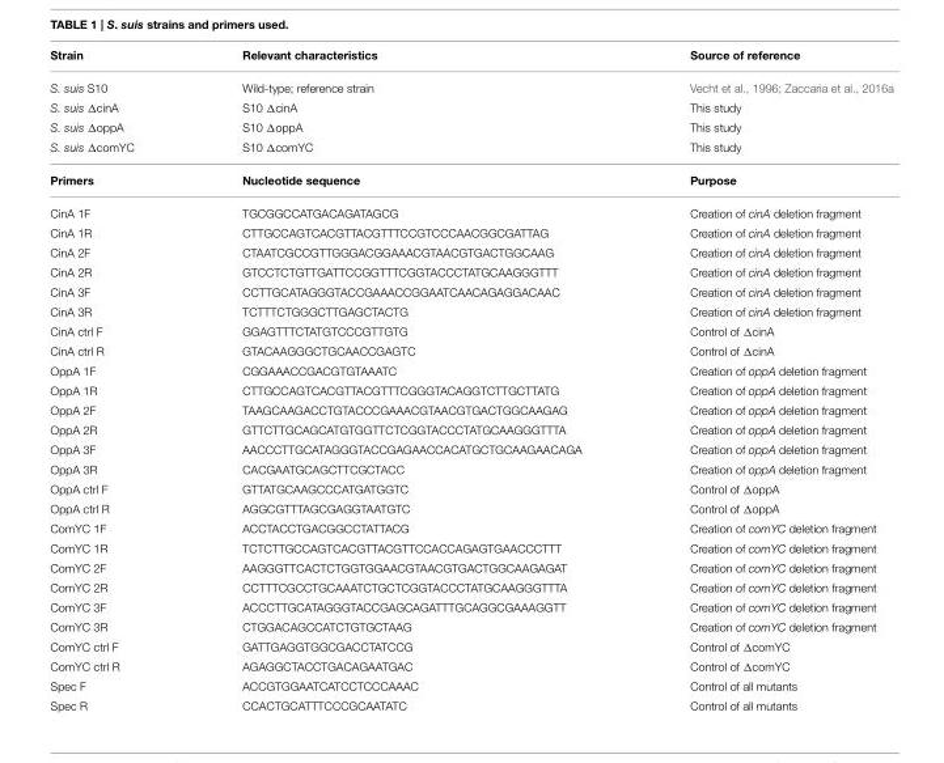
<table><thead><tr><td>Strain</td><td>Relevant characteristics</td><td>Source of reference</td></tr></thead><tbody><tr><td>S. suis S10</td><td>Wild-type; reference strain</td><td>Vecht et al., 1996; Zaccaria et al., 2016a</td></tr><tr><td>S. suis ΔcinA</td><td>S10 ΔcinA</td><td>This study</td></tr><tr><td>S. suis ΔoppA</td><td>S10 ΔoppA</td><td>This study</td></tr><tr><td>S. suis ΔcomYC</td><td>S10 ΔcomYC</td><td>This study</td></tr><tr><td>Primers</td><td>Nucleotide sequence</td><td>Purpose</td></tr><tr><td>CinA 1F</td><td>TGCGGCCATGACAGATAGCG</td><td>Creation of cinA deletion fragment</td></tr><tr><td>CinA 1R</td><td>CTTGCCAGTCACGTTACGTTTCCGTCCCAACGGCGATTAG</td><td>Creation of cinA deletion fragment</td></tr><tr><td>CinA 2F</td><td>CTAATCGCCGTTGGGACGGAAACGTAACGTGACTGGCAAG</td><td>Creation of cinA deletion fragment</td></tr><tr><td>CinA 2R</td><td>GTCCTCTGTTGATTCCGGTTTCGGTACCCTATGCAAGGGTTT</td><td>Creation of cinA deletion fragment</td></tr><tr><td>CinA 3F</td><td>CCTTGCATAGGGTACCGAAACCGGAATCAACAGAGGACAAC</td><td>Creation of cinA deletion fragment</td></tr><tr><td>CinA 3R</td><td>TCTTTCTGGGCTTGAGCTACTG</td><td>Creation of cinA deletion fragment</td></tr><tr><td>CinA ctrl F</td><td>GGAGTTTCTATGTCCCGTTGTG</td><td>Control of ΔcinA</td></tr><tr><td>CinA ctrl R</td><td>GTACAAGGGCTGCAACCGAGTC</td><td>Control of ΔcinA</td></tr><tr><td>OppA 1F</td><td>CGGAAACCGACGTGTAAATC</td><td>Creation of oppA deletion fragment</td></tr><tr><td>OppA 1R</td><td>CTTGCCAGTCACGTTACGTTTCGGGTACAGGTCTTGCTTATG</td><td>Creation of oppA deletion fragment</td></tr><tr><td>OppA 2F</td><td>TAAGCAAGACCTGTACCCGAAACGTAACGTGACTGGCAAGAG</td><td>Creation of oppA deletion fragment</td></tr><tr><td>OppA 2R</td><td>GTTCTTGCAGCATGTGGTTCTCGGTACCCTATGCAAGGGTTTA</td><td>Creation of oppA deletion fragment</td></tr><tr><td>OppA 3F</td><td>AACCCTTGCATAGGGTACCGAGAACCACATGCTGCAAGAACAGA</td><td>Creation of oppA deletion fragment</td></tr><tr><td>OppA 3R</td><td>CACGAATGCAGCTTCGCTACC</td><td>Creation of oppA deletion fragment</td></tr><tr><td>OppA ctrl F</td><td>GTTATGCAAGCCCATGATGGTC</td><td>Control of ΔoppA</td></tr><tr><td>OppA ctrl R</td><td>AGGCGTTTAGCGAGGTAATGTC</td><td>Control of ΔoppA</td></tr><tr><td>ComYC 1F</td><td>ACCTACCTGACGGCCTATTACG</td><td>Creation of comYC deletion fragment</td></tr><tr><td>ComYC 1R</td><td>TCTCTTGCCAGTCACGTTACGTTCCACCAGAGTGAACCCTTT</td><td>Creation of comYC deletion fragment</td></tr><tr><td>ComYC 2F</td><td>AAGGGTTCACTCTGGTGGAACGTAACGTGACTGGCAAGAGAT</td><td>Creation of comYC deletion fragment</td></tr><tr><td>ComYC 2R</td><td>CCTTTCGCCTGCAAATCTGCTCGGTACCCTATGCAAGGGTTTA</td><td>Creation of comYC deletion fragment</td></tr><tr><td>ComYC 3F</td><td>ACCCTTGCATAGGGTACCGAGCAGATTTGCAGGCGAAAGGTT</td><td>Creation of comYC deletion fragment</td></tr><tr><td>ComYC 3R</td><td>CTGGACAGCCATCTGTGCTAAG</td><td>Creation of comYC deletion fragment</td></tr><tr><td>ComYC ctrl F</td><td>GATTGAGGTGGCGACCTATCCG</td><td>Control of ΔcomYC</td></tr><tr><td>ComYC ctrl R</td><td>AGAGGCTACCTGACAGAATGAC</td><td>Control of ΔcomYC</td></tr><tr><td>Spec F</td><td>ACCGTGGAATCATCCTCCCAAAC</td><td>Control of all mutants</td></tr><tr><td>Spec R</td><td>CCACTGCATTTCCCGCAATATC</td><td>Control of all mutants</td></tr></tbody></table>